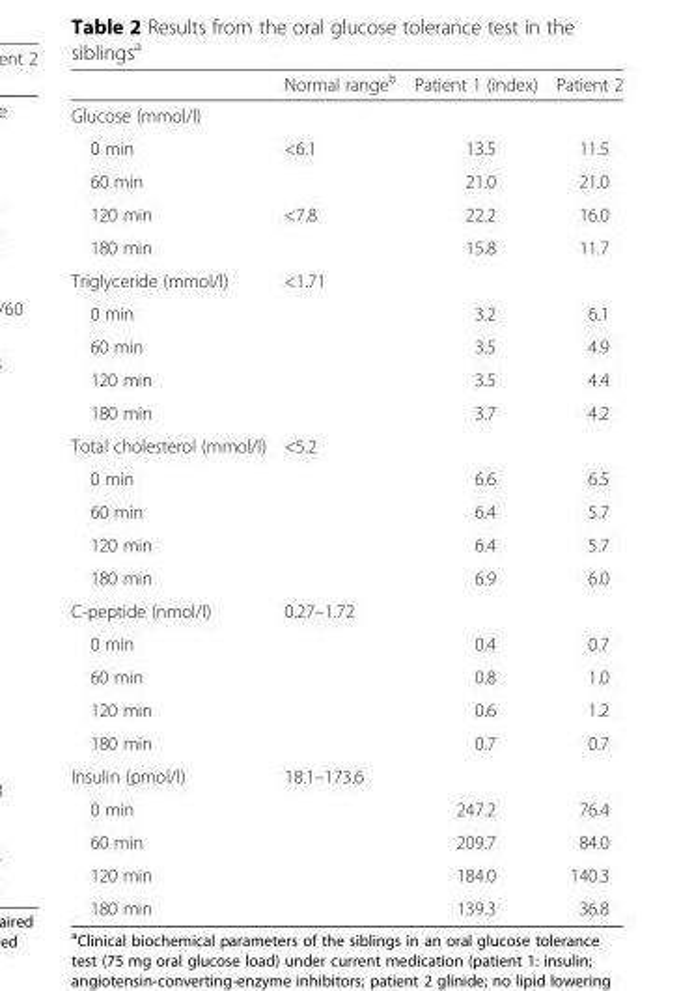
<table><thead><tr><td></td><td>Normal range<sup>b</sup></td><td>Patient 1 (index)</td><td>Patient 2</td></tr></thead><tbody><tr><td colspan="4">Glucose (mmol/l)</td></tr><tr><td>0 min</td><td>&lt;6.1</td><td>13.5</td><td>11.5</td></tr><tr><td>60 min</td><td></td><td>21.0</td><td>21.0</td></tr><tr><td>120 min</td><td>&lt;7.8</td><td>22.2</td><td>16.0</td></tr><tr><td>180 min</td><td></td><td>15.8</td><td>11.7</td></tr><tr><td>Triglyceride (mmol/l)</td><td>&lt;1.71</td><td></td><td></td></tr><tr><td>0 min</td><td></td><td>3.2</td><td>6.1</td></tr><tr><td>60 min</td><td></td><td>3.5</td><td>4.9</td></tr><tr><td>120 min</td><td></td><td>3.5</td><td>4.4</td></tr><tr><td>180 min</td><td></td><td>3.7</td><td>4.2</td></tr><tr><td>Total cholesterol (mmol/l)</td><td>&lt;5.2</td><td></td><td></td></tr><tr><td>0 min</td><td></td><td>6.6</td><td>6.5</td></tr><tr><td>60 min</td><td></td><td>6.4</td><td>5.7</td></tr><tr><td>120 min</td><td></td><td>6.4</td><td>5.7</td></tr><tr><td>180 min</td><td></td><td>6.9</td><td>6.0</td></tr><tr><td>C-peptide (nmol/l)</td><td>0.27–1.72</td><td></td><td></td></tr><tr><td>0 min</td><td></td><td>0.4</td><td>0.7</td></tr><tr><td>60 min</td><td></td><td>0.8</td><td>1.0</td></tr><tr><td>120 min</td><td></td><td>0.6</td><td>1.2</td></tr><tr><td>180 min</td><td></td><td>0.7</td><td>0.7</td></tr><tr><td>Insulin (pmol/l)</td><td>18.1–173.6</td><td></td><td></td></tr><tr><td>0 min</td><td></td><td>247.2</td><td>76.4</td></tr><tr><td>60 min</td><td></td><td>209.7</td><td>84.0</td></tr><tr><td>120 min</td><td></td><td>184.0</td><td>140.3</td></tr><tr><td>180 min</td><td></td><td>139.3</td><td>36.8</td></tr></tbody></table>